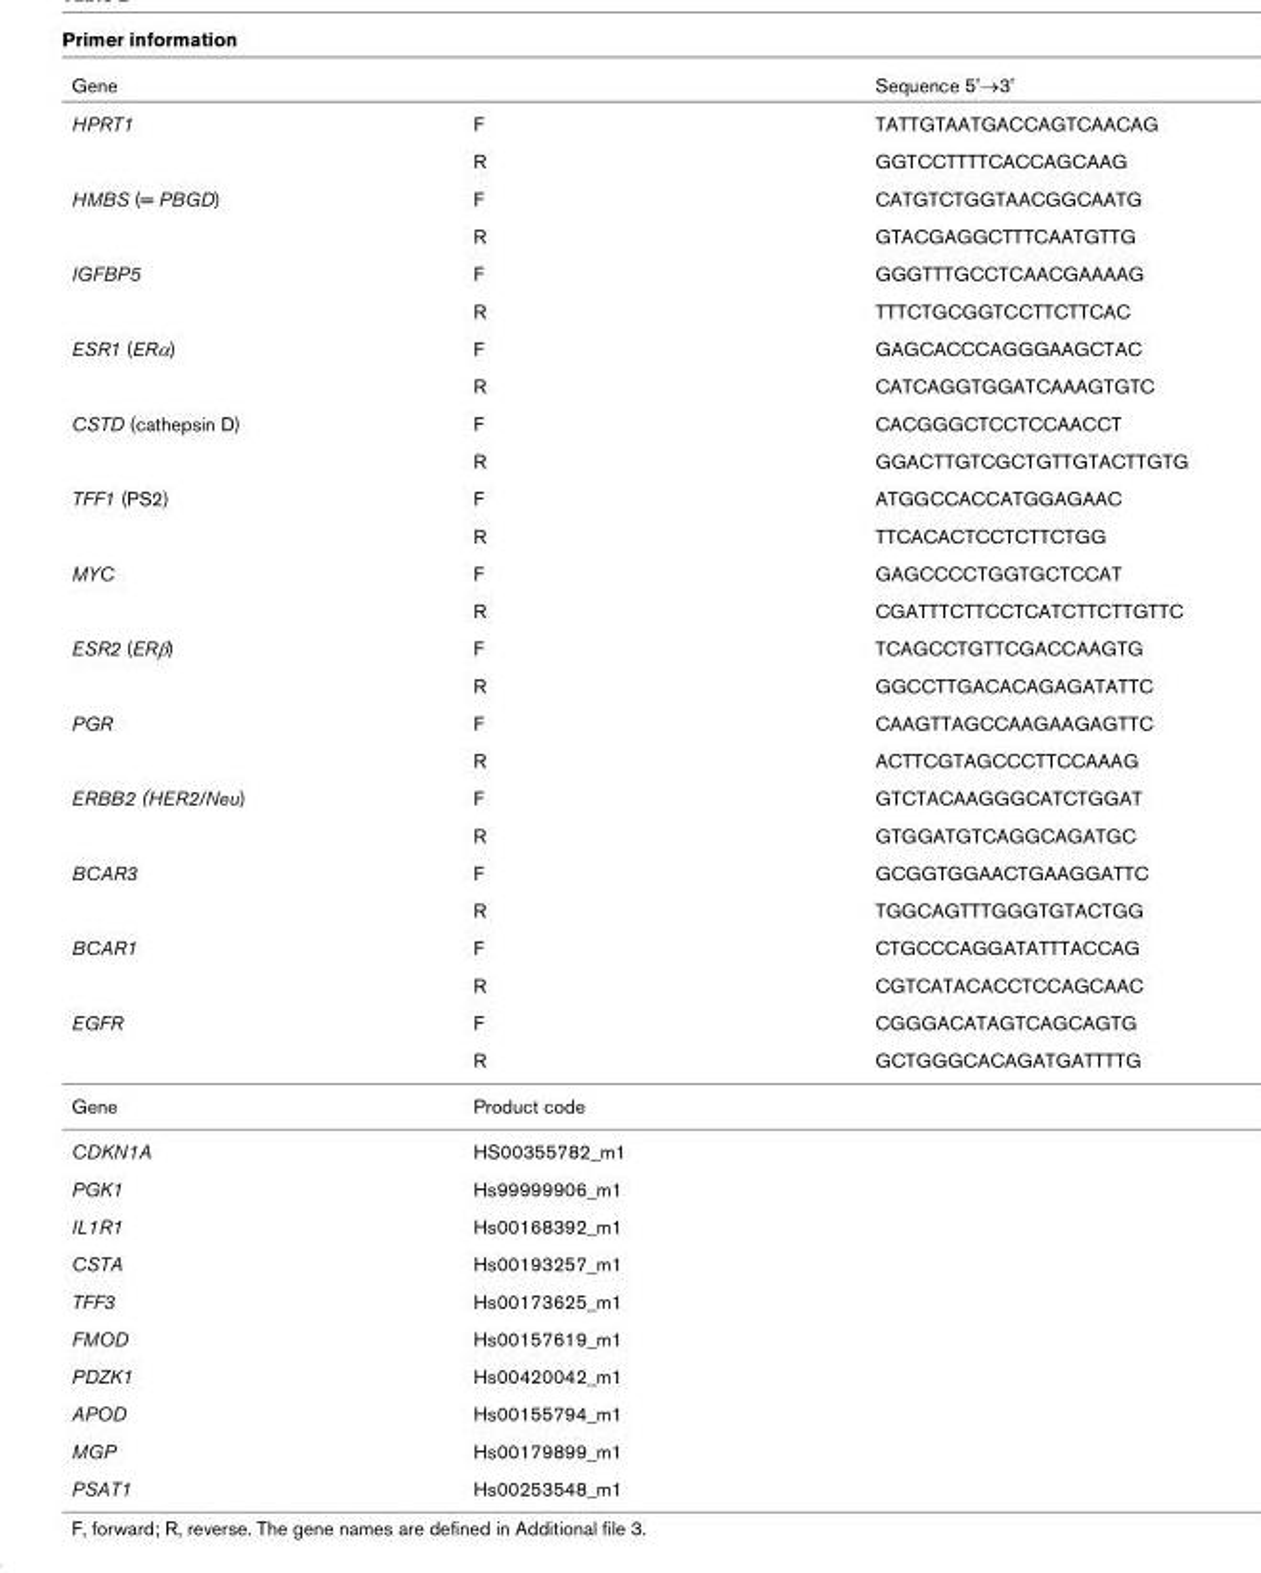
<table><thead><tr><td>Gene</td><td></td><td>Sequence 5&#x27;→3&#x27;</td></tr></thead><tbody><tr><td rowspan="2">HPRT1</td><td>F</td><td>TATTGTAATGACCAGTCAACAG</td></tr><tr><td>R</td><td>GGTCCTTTTCACCAGCAAG</td></tr><tr><td rowspan="2">HMBS (= PBGD)</td><td>F</td><td>CATGTCTGGTAACGGCAATG</td></tr><tr><td>R</td><td>GTACGAGGCTTTCAATGTTG</td></tr><tr><td rowspan="2">IGFBP5</td><td>F</td><td>GGGTTTGCCTCAACGAAAAG</td></tr><tr><td>R</td><td>TTTCTGCGGTCCTTCTTCAC</td></tr><tr><td rowspan="2">ESR1 (ERα)</td><td>F</td><td>GAGCACCCAGGGAAGCTAC</td></tr><tr><td>R</td><td>CATCAGGTGGATCAAAGTGTC</td></tr><tr><td rowspan="2">CSTD (cathepsin D)</td><td>F</td><td>CACGGGCTCCTCCAACCT</td></tr><tr><td>R</td><td>GGACTTGTCGCTGTTGTACTTGTG</td></tr><tr><td rowspan="2">TFF1 (PS2)</td><td>F</td><td>ATGGCCACCATGGAGAAC</td></tr><tr><td>R</td><td>TTCACACTCCTCTTCTGG</td></tr><tr><td rowspan="2">MYC</td><td>F</td><td>GAGCCCCTGGTGCTCCAT</td></tr><tr><td>R</td><td>CGATTTCTTCCTCATCTTCTTGTTC</td></tr><tr><td rowspan="2">ESR2 (ERβ)</td><td>F</td><td>TCAGCCTGTTCGACCAAGTG</td></tr><tr><td>R</td><td>GGCCTTGACACAGAGATATTC</td></tr><tr><td rowspan="2">PGR</td><td>F</td><td>CAAGTTAGCCAAGAAGAGTTC</td></tr><tr><td>R</td><td>ACTTCGTAGCCCTTCCAAAG</td></tr><tr><td rowspan="2">ERBB2 (HER2/Neu)</td><td>F</td><td>GTCTACAAGGGCATCTGGAT</td></tr><tr><td>R</td><td>GTGGATGTCAGGCAGATGC</td></tr><tr><td rowspan="2">BCAR3</td><td>F</td><td>GCGGTGGAACTGAAGGATTC</td></tr><tr><td>R</td><td>TGGCAGTTTGGGTGTACTGG</td></tr><tr><td rowspan="2">BCAR1</td><td>F</td><td>CTGCCCAGGATATTTACCAG</td></tr><tr><td>R</td><td>CGTCATACACCTCCAGCAAC</td></tr><tr><td rowspan="2">EGFR</td><td>F</td><td>CGGGACATAGTCAGCAGTG</td></tr><tr><td>R</td><td>GCTGGGCACAGATGATTTTG</td></tr><tr><td>Gene</td><td colspan="2">Product code</td></tr><tr><td>CDKN1A</td><td colspan="2">HS00355782_m1</td></tr><tr><td>PGK1</td><td colspan="2">Hs99999906_m1</td></tr><tr><td>IL1R1</td><td colspan="2">Hs00168392_m1</td></tr><tr><td>CSTA</td><td colspan="2">Hs00193257_m1</td></tr><tr><td>TFF3</td><td colspan="2">Hs00173625_m1</td></tr><tr><td>FMOD</td><td colspan="2">Hs00157619_m1</td></tr><tr><td>PDZK1</td><td colspan="2">Hs00420042_m1</td></tr><tr><td>APOD</td><td colspan="2">Hs00155794_m1</td></tr><tr><td>MGP</td><td colspan="2">Hs00179899_m1</td></tr><tr><td>PSAT1</td><td colspan="2">Hs00253548_m1</td></tr></tbody></table>